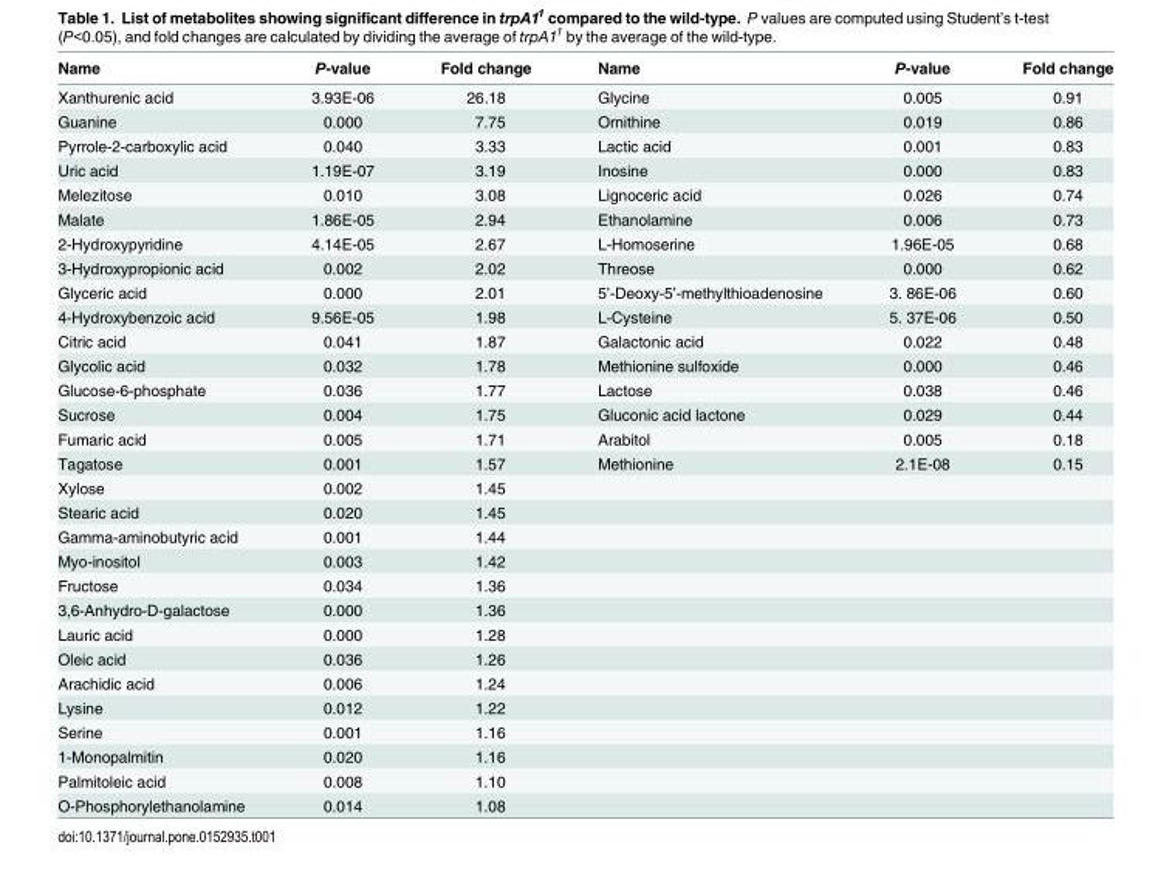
<table><thead><tr><td>Name</td><td>P-value</td><td>Fold change</td><td>Name</td><td>P-value</td><td>Fold change</td></tr></thead><tbody><tr><td>Xanthurenic acid</td><td>3.93E-06</td><td>26.18</td><td>Glycine</td><td>0.005</td><td>0.91</td></tr><tr><td>Guanine</td><td>0.000</td><td>7.75</td><td>Ornithine</td><td>0.019</td><td>0.86</td></tr><tr><td>Pyrrole-2-carboxylic acid</td><td>0.040</td><td>3.33</td><td>Lactic acid</td><td>0.001</td><td>0.83</td></tr><tr><td>Uric acid</td><td>1.19E-07</td><td>3.19</td><td>Inosine</td><td>0.000</td><td>0.83</td></tr><tr><td>Melezitose</td><td>0.010</td><td>3.08</td><td>Lignoceric acid</td><td>0.026</td><td>0.74</td></tr><tr><td>Malate</td><td>1.86E-05</td><td>2.94</td><td>Ethanolamine</td><td>0.006</td><td>0.73</td></tr><tr><td>2-Hydroxypyridine</td><td>4.14E-05</td><td>2.67</td><td>L-Homoserine</td><td>1.96E-05</td><td>0.68</td></tr><tr><td>3-Hydroxypropionic acid</td><td>0.002</td><td>2.02</td><td>Threose</td><td>0.000</td><td>0.62</td></tr><tr><td>Glyceric acid</td><td>0.000</td><td>2.01</td><td>5’-Deoxy-5’-methylthioadenosine</td><td>3. 86E-06</td><td>0.60</td></tr><tr><td>4-Hydroxybenzoic acid</td><td>9.56E-05</td><td>1.98</td><td>L-Cysteine</td><td>5. 37E-06</td><td>0.50</td></tr><tr><td>Citric acid</td><td>0.041</td><td>1.87</td><td>Galactonic acid</td><td>0.022</td><td>0.48</td></tr><tr><td>Glycolic acid</td><td>0.032</td><td>1.78</td><td>Methionine sulfoxide</td><td>0.000</td><td>0.46</td></tr><tr><td>Glucose-6-phosphate</td><td>0.036</td><td>1.77</td><td>Lactose</td><td>0.038</td><td>0.46</td></tr><tr><td>Sucrose</td><td>0.004</td><td>1.75</td><td>Gluconic acid lactone</td><td>0.029</td><td>0.44</td></tr><tr><td>Fumaric acid</td><td>0.005</td><td>1.71</td><td>Arabitol</td><td>0.005</td><td>0.18</td></tr><tr><td>Tagatose</td><td>0.001</td><td>1.57</td><td>Methionine</td><td>2.1E-08</td><td>0.15</td></tr><tr><td>Xylose</td><td>0.002</td><td>1.45</td><td></td><td></td><td></td></tr><tr><td>Stearic acid</td><td>0.020</td><td>1.45</td><td></td><td></td><td></td></tr><tr><td>Gamma-aminobutyric acid</td><td>0.001</td><td>1.44</td><td></td><td></td><td></td></tr><tr><td>Myo-inositol</td><td>0.003</td><td>1.42</td><td></td><td></td><td></td></tr><tr><td>Fructose</td><td>0.034</td><td>1.36</td><td></td><td></td><td></td></tr><tr><td>3,6-Anhydro-D-galactose</td><td>0.000</td><td>1.36</td><td></td><td></td><td></td></tr><tr><td>Lauric acid</td><td>0.000</td><td>1.28</td><td></td><td></td><td></td></tr><tr><td>Oleic acid</td><td>0.036</td><td>1.26</td><td></td><td></td><td></td></tr><tr><td>Arachidic acid</td><td>0.006</td><td>1.24</td><td></td><td></td><td></td></tr><tr><td>Lysine</td><td>0.012</td><td>1.22</td><td></td><td></td><td></td></tr><tr><td>Serine</td><td>0.001</td><td>1.16</td><td></td><td></td><td></td></tr><tr><td>1-Monopalmitin</td><td>0.020</td><td>1.16</td><td></td><td></td><td></td></tr><tr><td>Palmitoleic acid</td><td>0.008</td><td>1.10</td><td></td><td></td><td></td></tr><tr><td>O-Phosphorylethanolamine</td><td>0.014</td><td>1.08</td><td></td><td></td><td></td></tr></tbody></table>